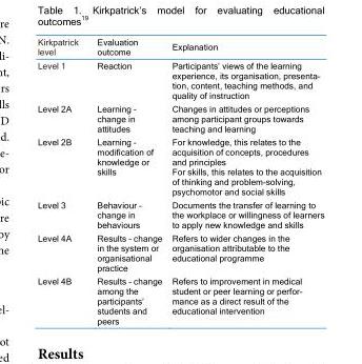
<table><thead><tr><td>Kirkpatrick level</td><td>Evaluation outcome</td><td>Explanation</td></tr></thead><tbody><tr><td>Level 1</td><td>Reaction</td><td>Participants’ views of the learning experience, its organisation, presenta- tion, content, teaching methods, and quality of instruction</td></tr><tr><td>Level 2A</td><td>Learning – change in attitudes</td><td>Changes in attitudes or perceptions among participant groups towards teaching and learning</td></tr><tr><td>Level 2B</td><td>Learning – modification of knowledge or skills</td><td>For knowledge, this relates to the acquisition of concepts, procedures and principles For skills, this relates to the acquisition of thinking and problem-solving, psychomotor and social skills</td></tr><tr><td>Level 3</td><td>Behaviour – change in behaviours</td><td>Documents the transfer of learning to the workplace or willingness of learners to apply new knowledge and skills</td></tr><tr><td>Level 4A</td><td>Results – change in the system or organisational practice</td><td>Refers to wider changes in the organisation attributable to the educational programme</td></tr><tr><td>Level 4B</td><td>Results – change among the participants’ students and peers</td><td>Refers to improvement in medical student or peer learning or perfor- mance as a direct result of the educational intervention</td></tr></tbody></table>